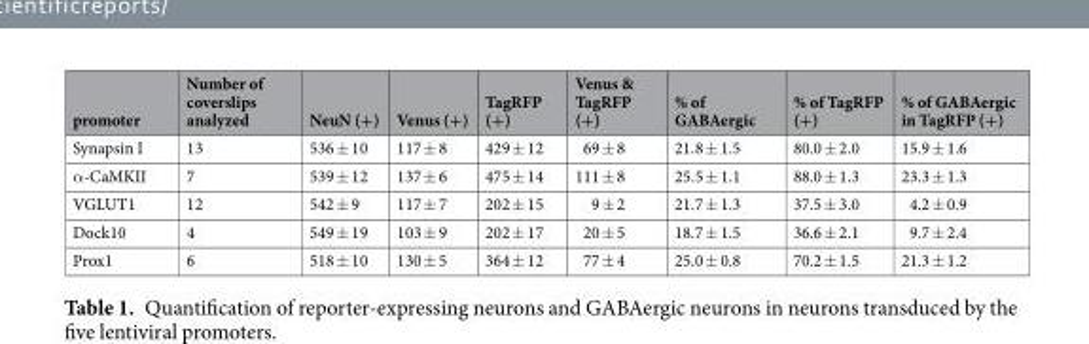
<table><thead><tr><td>promoter</td><td>Number of coverslips analyzed</td><td>NeuN (+)</td><td>Venus (+)</td><td>TagRFP (+)</td><td>Venus &amp; TagRFP (+)</td><td>% of GABAergic</td><td>% of TagRFP (+)</td><td>% of GABAergic in TagRFP (+)</td></tr></thead><tbody><tr><td>Synapsin I</td><td>13</td><td>536 ± 10</td><td>117 ± 8</td><td>429 ± 12</td><td>69 ± 8</td><td>21.8 ± 1.5</td><td>80.0 ± 2.0</td><td>15.9 ± 1.6</td></tr><tr><td>α-CaMKII</td><td>7</td><td>539 ± 12</td><td>137 ± 6</td><td>475 ± 14</td><td>111 ± 8</td><td>25.5 ± 1.1</td><td>88.0 ± 1.3</td><td>23.3 ± 1.3</td></tr><tr><td>VGLUT1</td><td>12</td><td>542 ± 9</td><td>117 ± 7</td><td>202 ± 15</td><td>9 ± 2</td><td>21.7 ± 1.3</td><td>37.5 ± 3.0</td><td>4.2 ± 0.9</td></tr><tr><td>Dock10</td><td>4</td><td>549 ± 19</td><td>103 ± 9</td><td>202 ± 17</td><td>20 ± 5</td><td>18.7 ± 1.5</td><td>36.6 ± 2.1</td><td>9.7 ± 2.4</td></tr><tr><td>Prox1</td><td>6</td><td>518 ± 10</td><td>130 ± 5</td><td>364 ± 12</td><td>77 ± 4</td><td>25.0 ± 0.8</td><td>70.2 ± 1.5</td><td>21.3 ± 1.2</td></tr></tbody></table>